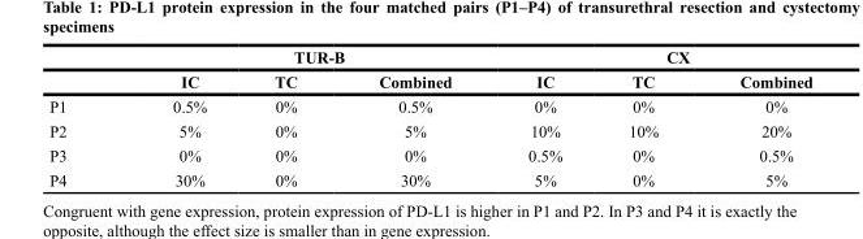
<table><thead><tr><td rowspan="2"></td><td colspan="3">TUR-B</td><td colspan="3">CX</td></tr><tr><td>IC</td><td>TC</td><td>Combined</td><td>IC</td><td>TC</td><td>Combined</td></tr></thead><tbody><tr><td>P1</td><td>0.5%</td><td>0%</td><td>0.5%</td><td>0%</td><td>0%</td><td>0%</td></tr><tr><td>P2</td><td>5%</td><td>0%</td><td>5%</td><td>10%</td><td>10%</td><td>20%</td></tr><tr><td>P3</td><td>0%</td><td>0%</td><td>0%</td><td>0.5%</td><td>0%</td><td>0.5%</td></tr><tr><td>P4</td><td>30%</td><td>0%</td><td>30%</td><td>5%</td><td>0%</td><td>5%</td></tr></tbody></table>